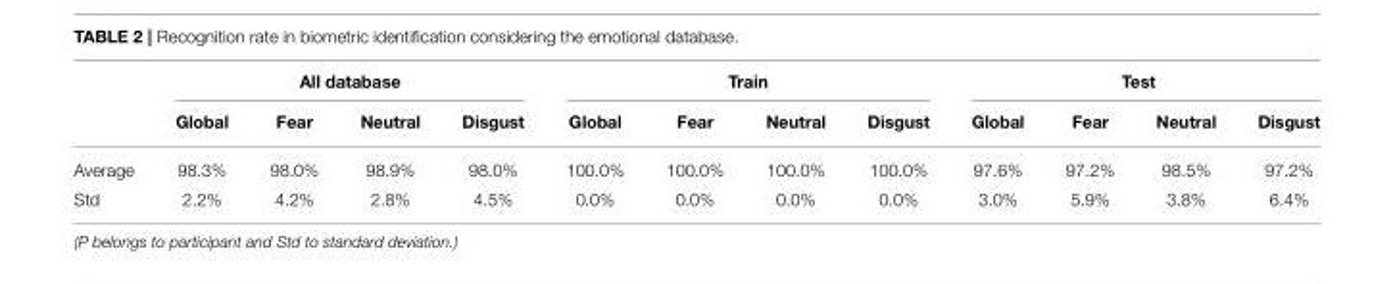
<table><thead><tr><td rowspan="2"></td><td colspan="4">All database</td><td colspan="4">Train</td><td colspan="4">Test</td></tr><tr><td>Global</td><td>Fear</td><td>Neutral</td><td>Disgust</td><td>Global</td><td>Fear</td><td>Neutral</td><td>Disgust</td><td>Global</td><td>Fear</td><td>Neutral</td><td>Disgust</td></tr></thead><tbody><tr><td>Average</td><td>98.3%</td><td>98.0%</td><td>98.9%</td><td>98.0%</td><td>100.0%</td><td>100.0%</td><td>100.0%</td><td>100.0%</td><td>97.6%</td><td>97.2%</td><td>98.5%</td><td>97.2%</td></tr><tr><td>Std</td><td>2.2%</td><td>4.2%</td><td>2.8%</td><td>4.5%</td><td>0.0%</td><td>0.0%</td><td>0.0%</td><td>0.0%</td><td>3.0%</td><td>5.9%</td><td>3.8%</td><td>6.4%</td></tr></tbody></table>